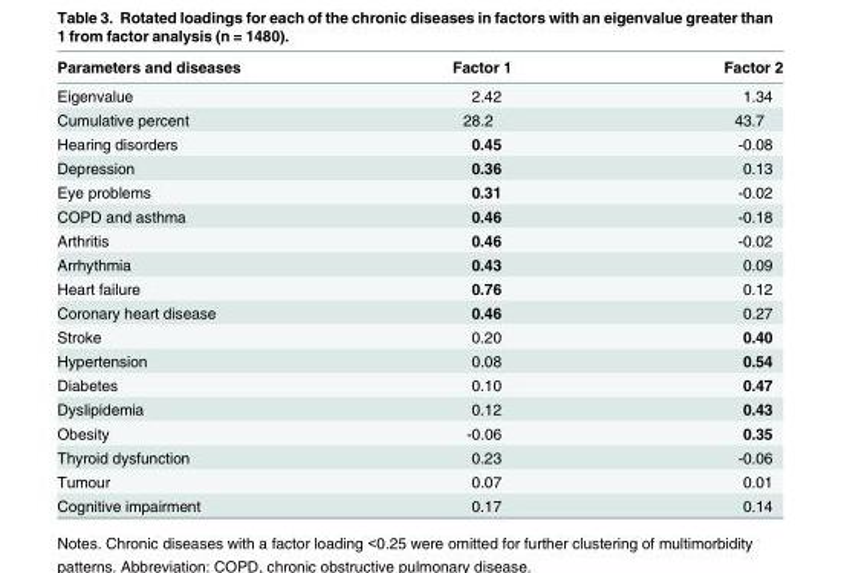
<table><thead><tr><td>Parameters and diseases</td><td>Factor 1</td><td>Factor 2</td></tr></thead><tbody><tr><td>Eigenvalue</td><td>2.42</td><td>1.34</td></tr><tr><td>Cumulative percent</td><td>28.2</td><td>43.7</td></tr><tr><td>Hearing disorders</td><td>0.45</td><td>-0.08</td></tr><tr><td>Depression</td><td>0.36</td><td>0.13</td></tr><tr><td>Eye problems</td><td>0.31</td><td>-0.02</td></tr><tr><td>COPD and asthma</td><td>0.46</td><td>-0.18</td></tr><tr><td>Arthritis</td><td>0.46</td><td>-0.02</td></tr><tr><td>Arrhythmia</td><td>0.43</td><td>0.09</td></tr><tr><td>Heart failure</td><td>0.76</td><td>0.12</td></tr><tr><td>Coronary heart disease</td><td>0.46</td><td>0.27</td></tr><tr><td>Stroke</td><td>0.20</td><td>0.40</td></tr><tr><td>Hypertension</td><td>0.08</td><td>0.54</td></tr><tr><td>Diabetes</td><td>0.10</td><td>0.47</td></tr><tr><td>Dyslipidemia</td><td>0.12</td><td>0.43</td></tr><tr><td>Obesity</td><td>-0.06</td><td>0.35</td></tr><tr><td>Thyroid dysfunction</td><td>0.23</td><td>-0.06</td></tr><tr><td>Tumour</td><td>0.07</td><td>0.01</td></tr><tr><td>Cognitive impairment</td><td>0.17</td><td>0.14</td></tr></tbody></table>